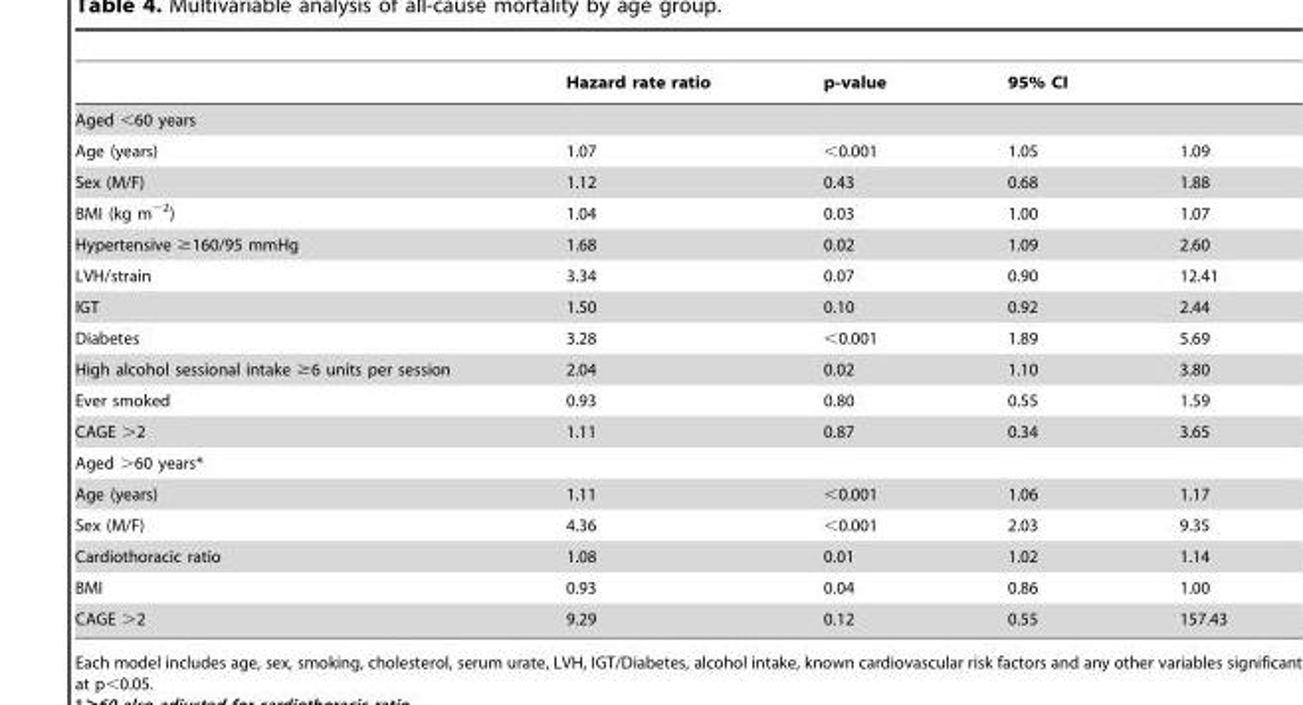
<table><thead><tr><td></td><td>Hazard rate ratio</td><td>p-value</td><td colspan="2">95% CI</td></tr><tr><td colspan="5">Aged &lt;60 years</td></tr><tr><td>Age (years)</td><td>1.07</td><td>&lt;0.001</td><td>1.05</td><td>1.09</td></tr></thead><tbody><tr><td>Sex (M/F)</td><td>1.12</td><td>0.43</td><td>0.68</td><td>1.88</td></tr><tr><td>BMI (kg m<sup>−2</sup>)</td><td>1.04</td><td>0.03</td><td>1.00</td><td>1.07</td></tr><tr><td>Hypertensive ≥160/95 mmHg</td><td>1.68</td><td>0.02</td><td>1.09</td><td>2.60</td></tr><tr><td>LVH/strain</td><td>3.34</td><td>0.07</td><td>0.90</td><td>12.41</td></tr><tr><td>IGT</td><td>1.50</td><td>0.10</td><td>0.92</td><td>2.44</td></tr><tr><td>Diabetes</td><td>3.28</td><td>&lt;0.001</td><td>1.89</td><td>5.69</td></tr><tr><td>High alcohol sessional intake ≥6 units per session</td><td>2.04</td><td>0.02</td><td>1.10</td><td>3.80</td></tr><tr><td>Ever smoked</td><td>0.93</td><td>0.80</td><td>0.55</td><td>1.59</td></tr><tr><td>CAGE &gt;2</td><td>1.11</td><td>0.87</td><td>0.34</td><td>3.65</td></tr><tr><td colspan="5">Aged &gt;60 years*</td></tr><tr><td>Age (years)</td><td>1.11</td><td>&lt;0.001</td><td>1.06</td><td>1.17</td></tr><tr><td>Sex (M/F)</td><td>4.36</td><td>&lt;0.001</td><td>2.03</td><td>9.35</td></tr><tr><td>Cardiothoracic ratio</td><td>1.08</td><td>0.01</td><td>1.02</td><td>1.14</td></tr><tr><td>BMI</td><td>0.93</td><td>0.04</td><td>0.86</td><td>1.00</td></tr><tr><td>CAGE &gt;2</td><td>9.29</td><td>0.12</td><td>0.55</td><td>157.43</td></tr></tbody></table>